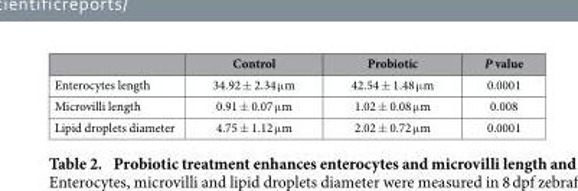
<table><thead><tr><td></td><td>Control</td><td>Probiotic</td><td>P value</td></tr></thead><tbody><tr><td>Enterocytes length</td><td>34.92 ± 2.34 μ m</td><td>42.54 ± 1.48 μ m</td><td>0.0001</td></tr><tr><td>Microvilli length</td><td>0.91 ± 0.07 μ m</td><td>1.02 ± 0.08 μ m</td><td>0.008</td></tr><tr><td>Lipid droplets diameter</td><td>4.75 ± 1.12 μ m</td><td>2.02 ± 0.72 μ m</td><td>0.0001</td></tr></tbody></table>